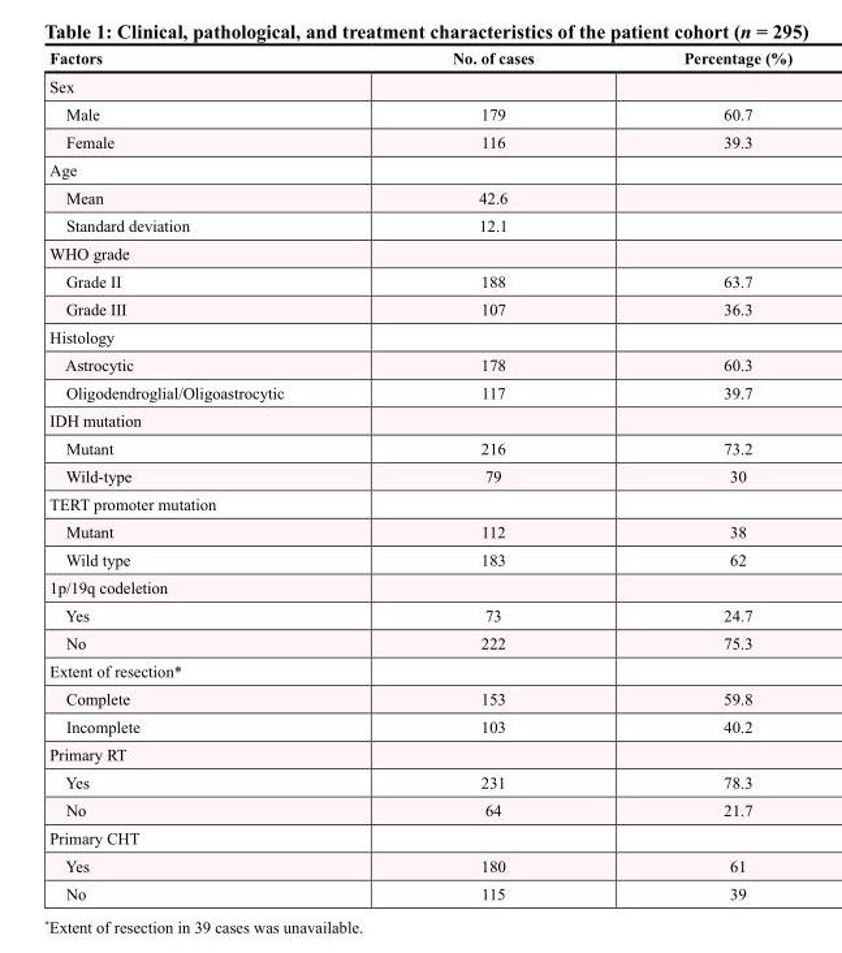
<table><thead><tr><td>Factors</td><td>No. of cases</td><td>Percentage (%)</td></tr></thead><tbody><tr><td colspan="3">Sex</td></tr><tr><td>Male</td><td>179</td><td>60.7</td></tr><tr><td>Female</td><td>116</td><td>39.3</td></tr><tr><td colspan="3">Age</td></tr><tr><td>Mean</td><td>42.6</td><td></td></tr><tr><td>Standard deviation</td><td>12.1</td><td></td></tr><tr><td colspan="3">WHO grade</td></tr><tr><td>Grade II</td><td>188</td><td>63.7</td></tr><tr><td>Grade III</td><td>107</td><td>36.3</td></tr><tr><td colspan="3">Histology</td></tr><tr><td>Astrocytic</td><td>178</td><td>60.3</td></tr><tr><td>Oligodendroglial/Oligoastrocytic</td><td>117</td><td>39.7</td></tr><tr><td colspan="3">IDH mutation</td></tr><tr><td>Mutant</td><td>216</td><td>73.2</td></tr><tr><td>Wild-type</td><td>79</td><td>30</td></tr><tr><td colspan="3">TERT promoter mutation</td></tr><tr><td>Mutant</td><td>112</td><td>38</td></tr><tr><td>Wild type</td><td>183</td><td>62</td></tr><tr><td colspan="3">1p/19q codeletion</td></tr><tr><td>Yes</td><td>73</td><td>24.7</td></tr><tr><td>No</td><td>222</td><td>75.3</td></tr><tr><td colspan="3">Extent of resection*</td></tr><tr><td>Complete</td><td>153</td><td>59.8</td></tr><tr><td>Incomplete</td><td>103</td><td>40.2</td></tr><tr><td colspan="3">Primary RT</td></tr><tr><td>Yes</td><td>231</td><td>78.3</td></tr><tr><td>No</td><td>64</td><td>21.7</td></tr><tr><td colspan="3">Primary CHT</td></tr><tr><td>Yes</td><td>180</td><td>61</td></tr><tr><td>No</td><td>115</td><td>39</td></tr></tbody></table>